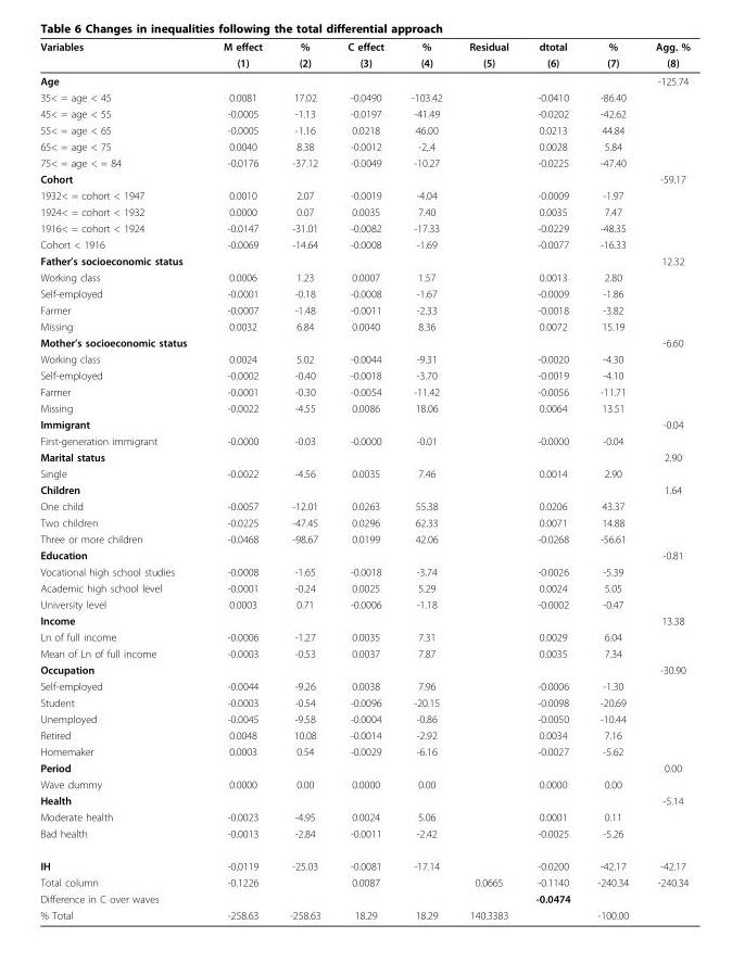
<table><thead><tr><td rowspan="2">Variables</td><td rowspan="2">M effect (1)</td><td rowspan="2">% (2)</td><td rowspan="2">C effect (3)</td><td rowspan="2">% (4)</td><td rowspan="2">Residual (5)</td><td rowspan="2">dtotal (6)</td><td rowspan="2">% (7)</td><td rowspan="2">Agg. % (8)</td></tr><tr></tr></thead><tbody><tr><td>Age</td><td></td><td></td><td></td><td></td><td></td><td></td><td></td><td>-125.74</td></tr><tr><td>35&lt; = age &lt; 45</td><td>0.0081</td><td>17.02</td><td>-0.0490</td><td>-103.42</td><td></td><td>-0.0410</td><td>-86.40</td><td></td></tr><tr><td>45&lt; = age &lt; 55</td><td>-0.0005</td><td>-1.13</td><td>-0.0197</td><td>-41.49</td><td></td><td>-0.0202</td><td>-42.62</td><td></td></tr><tr><td>55&lt; = age &lt; 65</td><td>-0.0005</td><td>-1.16</td><td>0.0218</td><td>46.00</td><td></td><td>0.0213</td><td>44.84</td><td></td></tr><tr><td>65&lt; = age &lt; 75</td><td>0.0040</td><td>8.38</td><td>-0.0012</td><td>-2,.4</td><td></td><td>0.0028</td><td>5.84</td><td></td></tr><tr><td>75&lt; = age &lt; = 84</td><td>-0.0176</td><td>-37.12</td><td>-0.0049</td><td>-10.27</td><td></td><td>-0.0225</td><td>-47.40</td><td></td></tr><tr><td>Cohort</td><td></td><td></td><td></td><td></td><td></td><td></td><td></td><td>-59.17</td></tr><tr><td>1932&lt; = cohort &lt; 1947</td><td>0.0010</td><td>2.07</td><td>-0.0019</td><td>-4.04</td><td></td><td>-0.0009</td><td>-1.97</td><td></td></tr><tr><td>1924&lt; = cohort &lt; 1932</td><td>0.0000</td><td>0.07</td><td>0.0035</td><td>7.40</td><td></td><td>0.0035</td><td>7.47</td><td></td></tr><tr><td>1916&lt; = cohort &lt; 1924</td><td>-0.0147</td><td>-31.01</td><td>-0.0082</td><td>-17.33</td><td></td><td>-0.0229</td><td>-48.35</td><td></td></tr><tr><td>Cohort &lt; 1916</td><td>-0.0069</td><td>-14.64</td><td>-0.0008</td><td>-1.69</td><td></td><td>-0.0077</td><td>-16.33</td><td></td></tr><tr><td>Father’s socioeconomic status</td><td></td><td></td><td></td><td></td><td></td><td></td><td></td><td>12.32</td></tr><tr><td>Working class</td><td>0.0006</td><td>1.23</td><td>0.0007</td><td>1.57</td><td></td><td>0.0013</td><td>2.80</td><td></td></tr><tr><td>Self-employed</td><td>-0.0001</td><td>-0.18</td><td>-0.0008</td><td>-1.67</td><td></td><td>-0.0009</td><td>-1.86</td><td></td></tr><tr><td>Farmer</td><td>-0.0007</td><td>-1.48</td><td>-0.0011</td><td>-2.33</td><td></td><td>-0.0018</td><td>-3.82</td><td></td></tr><tr><td>Missing</td><td>0.0032</td><td>6.84</td><td>0.0040</td><td>8.36</td><td></td><td>0.0072</td><td>15.19</td><td></td></tr><tr><td>Mother’s socioeconomic status</td><td></td><td></td><td></td><td></td><td></td><td></td><td></td><td>-6.60</td></tr><tr><td>Working class</td><td>0.0024</td><td>5.02</td><td>-0.0044</td><td>-9.31</td><td></td><td>-0.0020</td><td>-4.30</td><td></td></tr><tr><td>Self-employed</td><td>-0.0002</td><td>-0.40</td><td>-0.0018</td><td>-3.70</td><td></td><td>-0.0019</td><td>-4.10</td><td></td></tr><tr><td>Farmer</td><td>-0.0001</td><td>-0.30</td><td>-0.0054</td><td>-11.42</td><td></td><td>-0.0056</td><td>-11.71</td><td></td></tr><tr><td>Missing</td><td>-0.0022</td><td>-4.55</td><td>0.0086</td><td>18.06</td><td></td><td>0.0064</td><td>13.51</td><td></td></tr><tr><td>Immigrant</td><td></td><td></td><td></td><td></td><td></td><td></td><td></td><td>-0.04</td></tr><tr><td>First-generation immigrant</td><td>-0.0000</td><td>-0.03</td><td>-0.0000</td><td>-0.01</td><td></td><td>-0.0000</td><td>-0.04</td><td></td></tr><tr><td>Marital status</td><td></td><td></td><td></td><td></td><td></td><td></td><td></td><td>2.90</td></tr><tr><td>Single</td><td>-0.0022</td><td>-4.56</td><td>0.0035</td><td>7.46</td><td></td><td>0.0014</td><td>2.90</td><td></td></tr><tr><td>Children</td><td></td><td></td><td></td><td></td><td></td><td></td><td></td><td>1.64</td></tr><tr><td>One child</td><td>-0.0057</td><td>-12.01</td><td>0.0263</td><td>55.38</td><td></td><td>0.0206</td><td>43.37</td><td></td></tr><tr><td>Two children</td><td>-0.0225</td><td>-47.45</td><td>0.0296</td><td>62.33</td><td></td><td>0.0071</td><td>14.88</td><td></td></tr><tr><td>Three or more children</td><td>-0.0468</td><td>-98.67</td><td>0.0199</td><td>42.06</td><td></td><td>-0.0268</td><td>-56.61</td><td></td></tr><tr><td>Education</td><td></td><td></td><td></td><td></td><td></td><td></td><td></td><td>-0.81</td></tr><tr><td>Vocational high school studies</td><td>-0.0008</td><td>-1.65</td><td>-0.0018</td><td>-3.74</td><td></td><td>-0.0026</td><td>-5.39</td><td></td></tr><tr><td>Academic high school level</td><td>-0.0001</td><td>-0.24</td><td>0.0025</td><td>5.29</td><td></td><td>0.0024</td><td>5.05</td><td></td></tr><tr><td>University level</td><td>0.0003</td><td>0.71</td><td>-0.0006</td><td>-1.18</td><td></td><td>-0.0002</td><td>-0.47</td><td></td></tr><tr><td>Income</td><td></td><td></td><td></td><td></td><td></td><td></td><td></td><td>13.38</td></tr><tr><td>Ln of full income</td><td>-0.0006</td><td>-1.27</td><td>0.0035</td><td>7.31</td><td></td><td>0.0029</td><td>6.04</td><td></td></tr><tr><td>Mean of Ln of full income</td><td>-0.0003</td><td>-0.53</td><td>0.0037</td><td>7.87</td><td></td><td>0.0035</td><td>7.34</td><td></td></tr><tr><td>Occupation</td><td></td><td></td><td></td><td></td><td></td><td></td><td></td><td>-30.90</td></tr><tr><td>Self-employed</td><td>-0.0044</td><td>-9.26</td><td>0.0038</td><td>7.96</td><td></td><td>-0.0006</td><td>-1.30</td><td></td></tr><tr><td>Student</td><td>-0.0003</td><td>-0.54</td><td>-0.0096</td><td>-20.15</td><td></td><td>-0.0098</td><td>-20.69</td><td></td></tr><tr><td>Unemployed</td><td>-0.0045</td><td>-9.58</td><td>-0.0004</td><td>-0.86</td><td></td><td>-0.0050</td><td>-10.44</td><td></td></tr><tr><td>Retired</td><td>0.0048</td><td>10.08</td><td>-0.0014</td><td>-2.92</td><td></td><td>0.0034</td><td>7.16</td><td></td></tr><tr><td>Homemaker</td><td>0.0003</td><td>0.54</td><td>-0.0029</td><td>-6.16</td><td></td><td>-0.0027</td><td>-5.62</td><td></td></tr><tr><td>Period</td><td></td><td></td><td></td><td></td><td></td><td></td><td></td><td>0.00</td></tr><tr><td>Wave dummy</td><td>0.0000</td><td>0.00</td><td>0.0000</td><td>0.00</td><td></td><td>0.0000</td><td>0.00</td><td></td></tr><tr><td>Health</td><td></td><td></td><td></td><td></td><td></td><td></td><td></td><td>-5.14</td></tr><tr><td>Moderate health</td><td>-0.0023</td><td>-4.95</td><td>0.0024</td><td>5.06</td><td></td><td>0.0001</td><td>0.11</td><td></td></tr><tr><td>Bad health</td><td>-0.0013</td><td>-2.84</td><td>-0.0011</td><td>-2.42</td><td></td><td>-0.0025</td><td>-5.26</td><td></td></tr><tr><td>IH</td><td>-0,0119</td><td>-25.03</td><td>-0.0081</td><td>-17.14</td><td></td><td>-0.0200</td><td>-42.17</td><td>-42.17</td></tr><tr><td>Total column</td><td>-0.1226</td><td></td><td>0.0087</td><td></td><td>0.0665</td><td>-0.1140</td><td>-240.34</td><td>-240.34</td></tr><tr><td>Difference in C over waves</td><td></td><td></td><td></td><td></td><td></td><td>-0.0474</td><td></td><td></td></tr><tr><td>% Total</td><td>-258.63</td><td>-258.63</td><td>18.29</td><td>18.29</td><td>140.3383</td><td></td><td>-100.00</td><td></td></tr></tbody></table>